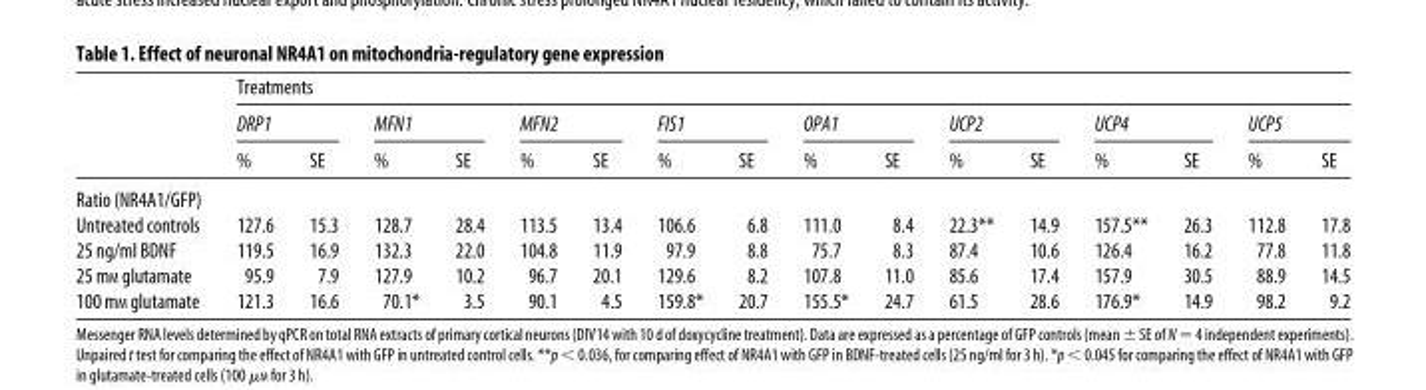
<table><thead><tr><td rowspan="3"></td><td colspan="16">Treatments</td></tr><tr><td colspan="2">DRP1</td><td colspan="2">MFN1</td><td colspan="2">MFN2</td><td colspan="2">FIS1</td><td colspan="2">OPA1</td><td colspan="2">UCP2</td><td colspan="2">UCP4</td><td colspan="2">UCP5</td></tr><tr><td>%</td><td>SE</td><td>%</td><td>SE</td><td>%</td><td>SE</td><td>%</td><td>SE</td><td>%</td><td>SE</td><td>%</td><td>SE</td><td>%</td><td>SE</td><td>%</td><td>SE</td></tr></thead><tbody><tr><td colspan="17">Ratio (NR4A1/GFP)</td></tr><tr><td>Untreated controls</td><td>127.6</td><td>15.3</td><td>128.7</td><td>28.4</td><td>113.5</td><td>13.4</td><td>106.6</td><td>6.8</td><td>111.0</td><td>8.4</td><td>22.3**</td><td>14.9</td><td>157.5**</td><td>26.3</td><td>112.8</td><td>17.8</td></tr><tr><td>25 ng/ml BDNF</td><td>119.5</td><td>16.9</td><td>132.3</td><td>22.0</td><td>104.8</td><td>11.9</td><td>97.9</td><td>8.8</td><td>75.7</td><td>8.3</td><td>87.4</td><td>10.6</td><td>126.4</td><td>16.2</td><td>77.8</td><td>11.8</td></tr><tr><td>25 mM glutamate</td><td>95.9</td><td>7.9</td><td>127.9</td><td>10.2</td><td>96.7</td><td>20.1</td><td>129.6</td><td>8.2</td><td>107.8</td><td>11.0</td><td>85.6</td><td>17.4</td><td>157.9</td><td>30.5</td><td>88.9</td><td>14.5</td></tr><tr><td>100 mM glutamate</td><td>121.3</td><td>16.6</td><td>70.1*</td><td>3.5</td><td>90.1</td><td>4.5</td><td>159.8*</td><td>20.7</td><td>155.5*</td><td>24.7</td><td>61.5</td><td>28.6</td><td>176.9*</td><td>14.9</td><td>98.2</td><td>9.2</td></tr></tbody></table>